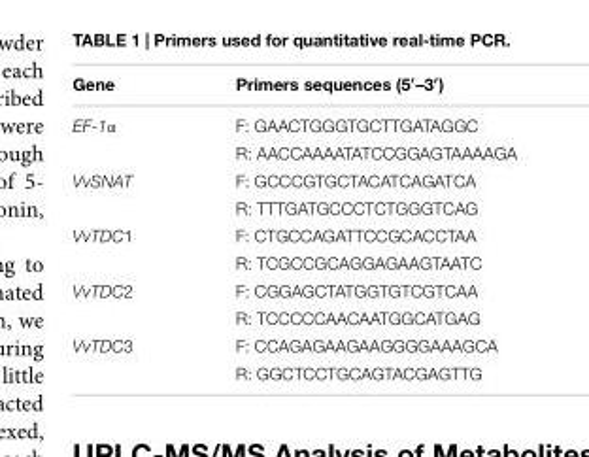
<table><thead><tr><td>Gene</td><td>Primers sequences (5′–3′)</td></tr></thead><tbody><tr><td rowspan="2">EF-1α</td><td>F: GAACTGGGTGCTTGATAGGC</td></tr><tr><td>R: AACCAAAATATCCGGAGTAAAAGA</td></tr><tr><td rowspan="2">VvSNAT</td><td>F: GCCCGTGCTACATCAGATCA</td></tr><tr><td>R: TTTGATGCCCTCTGGGTCAG</td></tr><tr><td rowspan="2">VvTDC1</td><td>F: CTGCCAGATTCCGCACCTAA</td></tr><tr><td>R: TCGCCGCAGGAGAAGTAATC</td></tr><tr><td rowspan="2">VvTDC2</td><td>F: CGGAGCTATGGTGTCGTCAA</td></tr><tr><td>R: TCCCCCAACAATGGCATGAG</td></tr><tr><td rowspan="2">VvTDC3</td><td>F: CCAGAGAAGAAGGGGAAAGCA</td></tr><tr><td>R: GGCTCCTGCAGTACGAGTTG</td></tr></tbody></table>